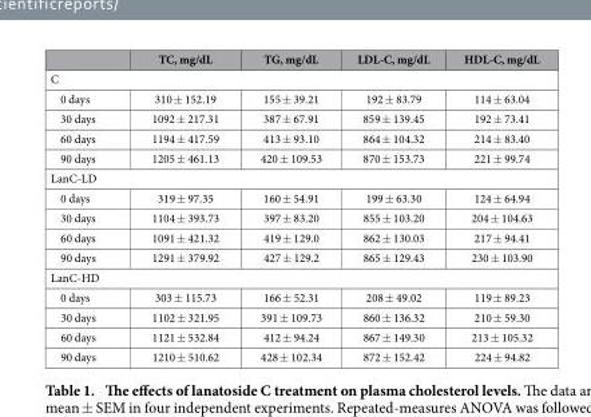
<table><thead><tr><td></td><td>TC, mg/dL</td><td>TG, mg/dL</td><td>LDL-C, mg/dL</td><td>HDL-C, mg/dL</td></tr></thead><tbody><tr><td colspan="5">C</td></tr><tr><td>0 days</td><td>310 ± 152.19</td><td>155 ± 39.21</td><td>192 ± 83.79</td><td>114 ± 63.04</td></tr><tr><td>30 days</td><td>1092 ± 217.31</td><td>387 ± 67.91</td><td>859 ± 139.45</td><td>192 ± 73.41</td></tr><tr><td>60 days</td><td>1194 ± 417.59</td><td>413 ± 93.10</td><td>864 ± 104.32</td><td>214 ± 83.40</td></tr><tr><td>90 days</td><td>1205 ± 461.13</td><td>420 ± 109.53</td><td>870 ± 153.73</td><td>221 ± 99.74</td></tr><tr><td colspan="5">LanC-LD</td></tr><tr><td>0 days</td><td>319 ± 97.35</td><td>160 ± 54.91</td><td>199 ± 63.30</td><td>124 ± 64.94</td></tr><tr><td>30 days</td><td>1104 ± 393.73</td><td>397 ± 83.20</td><td>855 ± 103.20</td><td>204 ± 104.63</td></tr><tr><td>60 days</td><td>1091 ± 421.32</td><td>419 ± 129.0</td><td>862 ± 130.03</td><td>217 ± 94.41</td></tr><tr><td>90 days</td><td>1291 ± 379.92</td><td>427 ± 129.2</td><td>865 ± 129.43</td><td>230 ± 103.90</td></tr><tr><td colspan="5">LanC-HD</td></tr><tr><td>0 days</td><td>303 ± 115.73</td><td>166 ± 52.31</td><td>208 ± 49.02</td><td>119 ± 89.23</td></tr><tr><td>30 days</td><td>1102 ± 321.95</td><td>391 ± 109.73</td><td>860 ± 136.32</td><td>210 ± 59.30</td></tr><tr><td>60 days</td><td>1121 ± 532.84</td><td>412 ± 94.24</td><td>867 ± 149.30</td><td>213 ± 105.32</td></tr><tr><td>90 days</td><td>1210 ± 510.62</td><td>428 ± 102.34</td><td>872 ± 152.42</td><td>224 ± 94.82</td></tr></tbody></table>